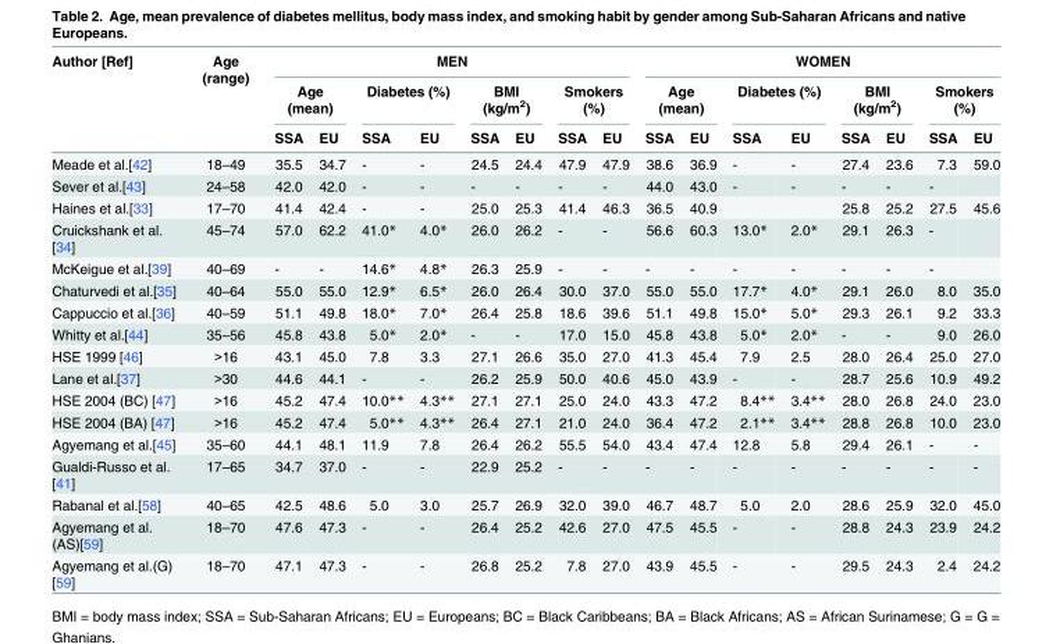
<table><thead><tr><td rowspan="3">Author [Ref]</td><td rowspan="3">Age (range)</td><td colspan="8">MEN</td><td colspan="8">WOMEN</td></tr><tr><td colspan="2">Age (mean)</td><td colspan="2">Diabetes (%)</td><td colspan="2">BMI (kg/m<sup>2</sup>)</td><td colspan="2">Smokers (%)</td><td colspan="2">Age (mean)</td><td colspan="2">Diabetes (%)</td><td colspan="2">BMI (kg/m<sup>2</sup>)</td><td colspan="2">Smokers (%)</td></tr><tr><td>SSA</td><td>EU</td><td>SSA</td><td>EU</td><td>SSA</td><td>EU</td><td>SSA</td><td>EU</td><td>SSA</td><td>EU</td><td>SSA</td><td>EU</td><td>SSA</td><td>EU</td><td>SSA</td><td>EU</td></tr></thead><tbody><tr><td>Meade et al.[42]</td><td>18–49</td><td>35.5</td><td>34.7</td><td>-</td><td>-</td><td>24.5</td><td>24.4</td><td>47.9</td><td>47.9</td><td>38.6</td><td>36.9</td><td>-</td><td>-</td><td>27.4</td><td>23.6</td><td>7.3</td><td>59.0</td></tr><tr><td>Sever et al.[43]</td><td>24–58</td><td>42.0</td><td>42.0</td><td>-</td><td>-</td><td>-</td><td>-</td><td>-</td><td>-</td><td>44.0</td><td>43.0</td><td>-</td><td>-</td><td>-</td><td>-</td><td>-</td><td></td></tr><tr><td>Haines et al.[33]</td><td>17–70</td><td>41.4</td><td>42.4</td><td>-</td><td>-</td><td>25.0</td><td>25.3</td><td>41.4</td><td>46.3</td><td>36.5</td><td>40.9</td><td></td><td></td><td>25.8</td><td>25.2</td><td>27.5</td><td>45.6</td></tr><tr><td>Cruickshank et al. [34]</td><td>45–74</td><td>57.0</td><td>62.2</td><td>41.0*</td><td>4.0*</td><td>26.0</td><td>26.2</td><td>-</td><td>-</td><td>56.6</td><td>60.3</td><td>13.0*</td><td>2.0*</td><td>29.1</td><td>26.3</td><td>-</td><td></td></tr><tr><td>McKeigue et al.[39]</td><td>40–69</td><td>-</td><td>-</td><td>14.6*</td><td>4.8*</td><td>26.3</td><td>25.9</td><td>-</td><td>-</td><td>-</td><td>-</td><td>-</td><td>-</td><td>-</td><td>-</td><td>-</td><td></td></tr><tr><td>Chaturvedi et al.[35]</td><td>40–64</td><td>55.0</td><td>55.0</td><td>12.9*</td><td>6.5*</td><td>26.0</td><td>26.4</td><td>30.0</td><td>37.0</td><td>55.0</td><td>55.0</td><td>17.7*</td><td>4.0*</td><td>29.1</td><td>26.0</td><td>8.0</td><td>35.0</td></tr><tr><td>Cappuccio et al.[36]</td><td>40–59</td><td>51.1</td><td>49.8</td><td>18.0*</td><td>7.0*</td><td>26.4</td><td>25.8</td><td>18.6</td><td>39.6</td><td>51.1</td><td>49.8</td><td>15.0*</td><td>5.0*</td><td>29.3</td><td>26.1</td><td>9.2</td><td>33.3</td></tr><tr><td>Whitty et al.[44]</td><td>35–56</td><td>45.8</td><td>43.8</td><td>5.0*</td><td>2.0*</td><td>-</td><td>-</td><td>17.0</td><td>15.0</td><td>45.8</td><td>43.8</td><td>5.0*</td><td>2.0*</td><td>-</td><td>-</td><td>9.0</td><td>26.0</td></tr><tr><td>HSE 1999 [46]</td><td>&gt;16</td><td>43.1</td><td>45.0</td><td>7.8</td><td>3.3</td><td>27.1</td><td>26.6</td><td>35.0</td><td>27.0</td><td>41.3</td><td>45.4</td><td>7.9</td><td>2.5</td><td>28.0</td><td>26.4</td><td>25.0</td><td>27.0</td></tr><tr><td>Lane et al.[37]</td><td>&gt;30</td><td>44.6</td><td>44.1</td><td>-</td><td>-</td><td>26.2</td><td>25.9</td><td>50.0</td><td>40.6</td><td>45.0</td><td>43.9</td><td>-</td><td>-</td><td>28.7</td><td>25.6</td><td>10.9</td><td>49.2</td></tr><tr><td>HSE 2004 (BC) [47]</td><td>&gt;16</td><td>45.2</td><td>47.4</td><td>10.0**</td><td>4.3**</td><td>27.1</td><td>27.1</td><td>25.0</td><td>24.0</td><td>43.3</td><td>47.2</td><td>8.4**</td><td>3.4**</td><td>28.0</td><td>26.8</td><td>24.0</td><td>23.0</td></tr><tr><td>HSE 2004 (BA) [47]</td><td>&gt;16</td><td>45.2</td><td>47.4</td><td>5.0**</td><td>4.3**</td><td>26.4</td><td>27.1</td><td>21.0</td><td>24.0</td><td>36.4</td><td>47.2</td><td>2.1**</td><td>3.4**</td><td>28.8</td><td>26.8</td><td>10.0</td><td>23.0</td></tr><tr><td>Agyemang et al.[45]</td><td>35–60</td><td>44.1</td><td>48.1</td><td>11.9</td><td>7.8</td><td>26.4</td><td>26.2</td><td>55.5</td><td>54.0</td><td>43.4</td><td>47.4</td><td>12.8</td><td>5.8</td><td>29.4</td><td>26.1</td><td>-</td><td>-</td></tr><tr><td>Gualdi-Russo et al. [41]</td><td>17–65</td><td>34.7</td><td>37.0</td><td>-</td><td>-</td><td>22.9</td><td>25.2</td><td>-</td><td>-</td><td>-</td><td>-</td><td>-</td><td>-</td><td>-</td><td>-</td><td>-</td><td>-</td></tr><tr><td>Rabanal et al.[58]</td><td>40–65</td><td>42.5</td><td>48.6</td><td>5.0</td><td>3.0</td><td>25.7</td><td>26.9</td><td>32.0</td><td>39.0</td><td>46.7</td><td>48.7</td><td>5.0</td><td>2.0</td><td>28.6</td><td>25.9</td><td>32.0</td><td>45.0</td></tr><tr><td>Agyemang et al. (AS)[59]</td><td>18–70</td><td>47.6</td><td>47.3</td><td>-</td><td>-</td><td>26.4</td><td>25.2</td><td>42.6</td><td>27.0</td><td>47.5</td><td>45.5</td><td>-</td><td>-</td><td>28.8</td><td>24.3</td><td>23.9</td><td>24.2</td></tr><tr><td>Agyemang et al.(G) [59]</td><td>18–70</td><td>47.1</td><td>47.3</td><td>-</td><td>-</td><td>26.8</td><td>25.2</td><td>7.8</td><td>27.0</td><td>43.9</td><td>45.5</td><td>-</td><td>-</td><td>29.5</td><td>24.3</td><td>2.4</td><td>24.2</td></tr></tbody></table>